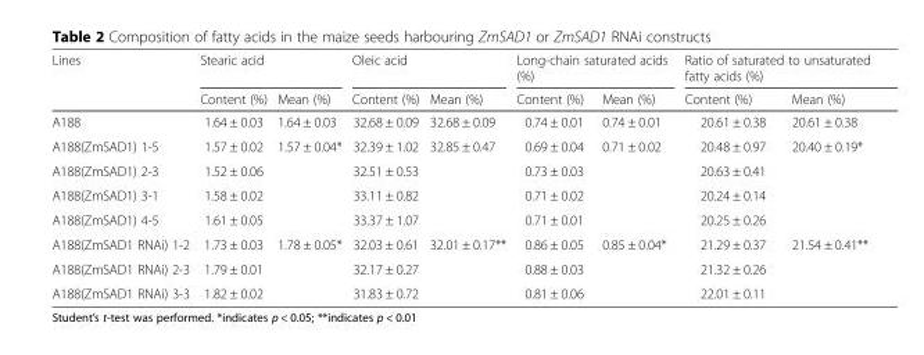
<table><thead><tr><td rowspan="2">Lines</td><td colspan="2">Stearic acid</td><td colspan="2">Oleic acid</td><td colspan="2">Long-chain saturated acids (%)</td><td colspan="2">Ratio of saturated to unsaturated fatty acids (%)</td></tr><tr><td>Content (%)</td><td>Mean (%)</td><td>Content (%)</td><td>Mean (%)</td><td>Content (%)</td><td>Mean (%)</td><td>Content (%)</td><td>Mean (%)</td></tr></thead><tbody><tr><td>A188</td><td>1.64 ± 0.03</td><td>1.64 ± 0.03</td><td>32.68 ± 0.09</td><td>32.68 ± 0.09</td><td>0.74 ± 0.01</td><td>0.74 ± 0.01</td><td>20.61 ± 0.38</td><td>20.61 ± 0.38</td></tr><tr><td>A188(ZmSAD1) 1-5</td><td>1.57 ± 0.02</td><td rowspan="4">1.57 ± 0.04*</td><td>32.39 ± 1.02</td><td rowspan="4">32.85 ± 0.47</td><td>0.69 ± 0.04</td><td rowspan="4">0.71 ± 0.02</td><td>20.48 ± 0.97</td><td rowspan="4">20.40 ± 0.19*</td></tr><tr><td>A188(ZmSAD1) 2-3</td><td>1.52 ± 0.06</td><td>32.51 ± 0.53</td><td>0.73 ± 0.03</td><td>20.63 ± 0.41</td></tr><tr><td>A188(ZmSAD1) 3-1</td><td>1.58 ± 0.02</td><td>33.11 ± 0.82</td><td>0.71 ± 0.02</td><td>20.24 ± 0.14</td></tr><tr><td>A188(ZmSAD1) 4-5</td><td>1.61 ± 0.05</td><td>33.37 ± 1.07</td><td>0.71 ± 0.01</td><td>20.25 ± 0.26</td></tr><tr><td>A188(ZmSAD1 RNAi) 1-2</td><td>1.73 ± 0.03</td><td rowspan="3">1.78 ± 0.05*</td><td>32.03 ± 0.61</td><td rowspan="3">32.01 ± 0.17**</td><td>0.86 ± 0.05</td><td rowspan="3">0.85 ± 0.04*</td><td>21.29 ± 0.37</td><td rowspan="3">21.54 ± 0.41**</td></tr><tr><td>A188(ZmSAD1 RNAi) 2-3</td><td>1.79 ± 0.01</td><td>32.17 ± 0.27</td><td>0.88 ± 0.03</td><td>21.32 ± 0.26</td></tr><tr><td>A188(ZmSAD1 RNAi) 3-3</td><td>1.82 ± 0.02</td><td>31.83 ± 0.72</td><td>0.81 ± 0.06</td><td>22.01 ± 0.11</td></tr></tbody></table>